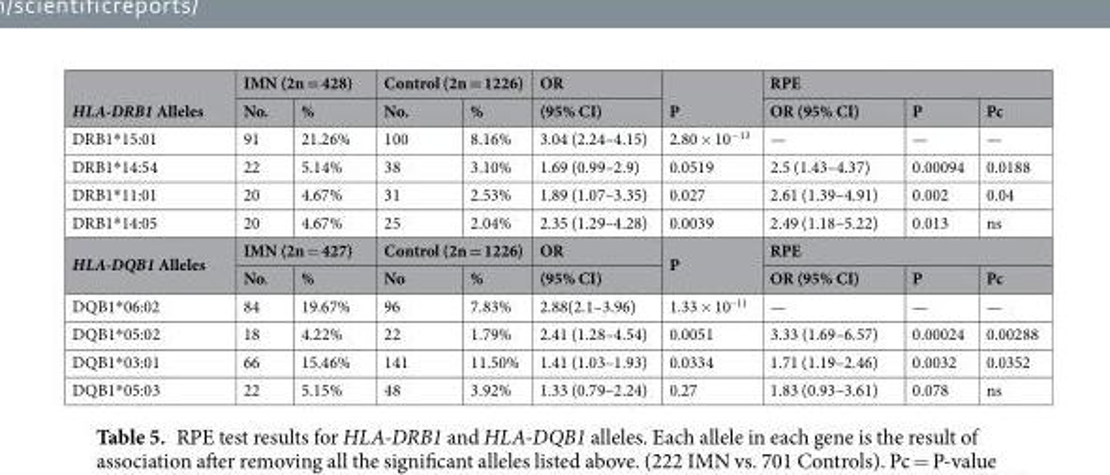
<table><thead><tr><td rowspan="2">HLA-DRB1 Alleles</td><td colspan="2">IMN (2n = 428)</td><td colspan="2">Control (2n = 1226)</td><td rowspan="2">OR (95% CI)</td><td rowspan="2">P</td><td colspan="3">RPE</td></tr><tr><td>No.</td><td>%</td><td>No.</td><td>%</td><td>OR (95% CI)</td><td>P</td><td>Pc</td></tr></thead><tbody><tr><td>DRB1*15:01</td><td>91</td><td>21.26%</td><td>100</td><td>8.16%</td><td>3.04 (2.24–4.15)</td><td>2.80 × 10<sup>−13</sup></td><td>—</td><td>—</td><td>—</td></tr><tr><td>DRB1*14:54</td><td>22</td><td>5.14%</td><td>38</td><td>3.10%</td><td>1.69 (0.99–2.9)</td><td>0.0519</td><td>2.5 (1.43–4.37)</td><td>0.00094</td><td>0.0188</td></tr><tr><td>DRB1*11:01</td><td>20</td><td>4.67%</td><td>31</td><td>2.53%</td><td>1.89 (1.07–3.35)</td><td>0.027</td><td>2.61 (1.39–4.91)</td><td>0.002</td><td>0.04</td></tr><tr><td>DRB1*14:05</td><td>20</td><td>4.67%</td><td>25</td><td>2.04%</td><td>2.35 (1.29–4.28)</td><td>0.0039</td><td>2.49 (1.18–5.22)</td><td>0.013</td><td>ns</td></tr><tr><td rowspan="2">HLA-DQB1 Alleles</td><td colspan="2">IMN (2n = 427)</td><td colspan="2">Control (2n = 1226)</td><td>OR</td><td rowspan="2">P</td><td colspan="3">RPE</td></tr><tr><td>No.</td><td>%</td><td>No</td><td>%</td><td>(95% CI)</td><td>OR (95% CI)</td><td>P</td><td>Pc</td></tr><tr><td>DQB1*06:02</td><td>84</td><td>19.67%</td><td>96</td><td>7.83%</td><td>2.88(2.1–3.96)</td><td>1.33 × 10<sup>–11</sup></td><td>—</td><td>—</td><td>—</td></tr><tr><td>DQB1*05:02</td><td>18</td><td>4.22%</td><td>22</td><td>1.79%</td><td>2.41 (1.28–4.54)</td><td>0.0051</td><td>3.33 (1.69–6.57)</td><td>0.00024</td><td>0.00288</td></tr><tr><td>DQB1*03:01</td><td>66</td><td>15.46%</td><td>141</td><td>11.50%</td><td>1.41 (1.03–1.93)</td><td>0.0334</td><td>1.71 (1.19–2.46)</td><td>0.0032</td><td>0.0352</td></tr><tr><td>DQB1*05:03</td><td>22</td><td>5.15%</td><td>48</td><td>3.92%</td><td>1.33 (0.79–2.24)</td><td>0.27</td><td>1.83 (0.93–3.61)</td><td>0.078</td><td>ns</td></tr></tbody></table>